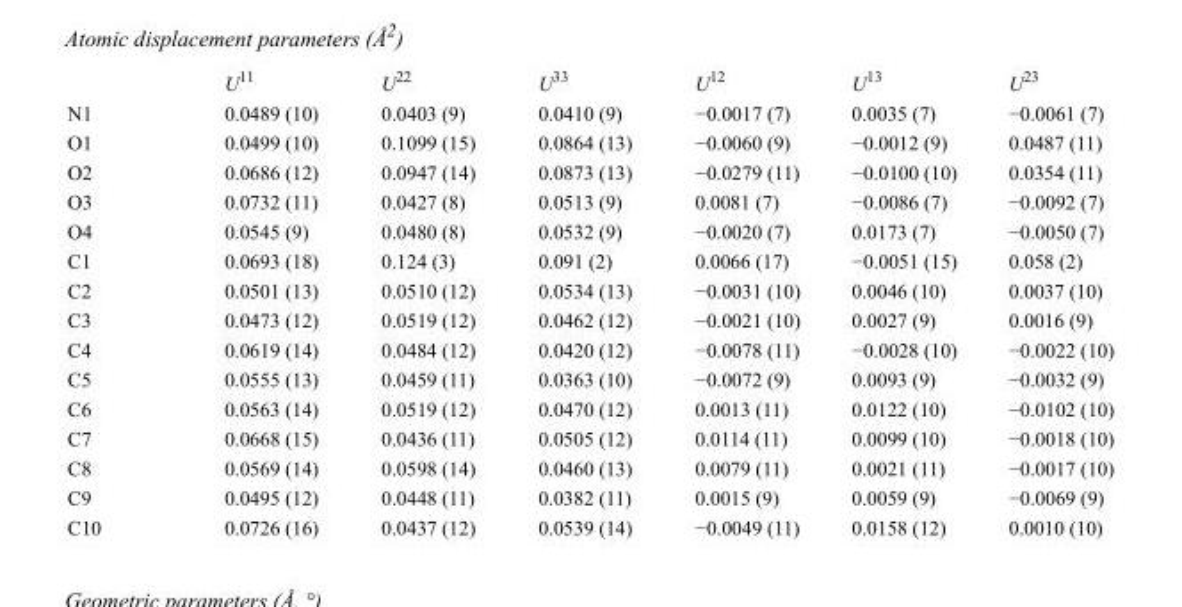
<table><thead><tr><td></td><td>U<sup>11</sup></td><td>U<sup>22</sup></td><td>U<sup>33</sup></td><td>U<sup>12</sup></td><td>U<sup>13</sup></td><td>U<sup>23</sup></td></tr></thead><tbody><tr><td>N1</td><td>0.0489 (10)</td><td>0.0403 (9)</td><td>0.0410 (9)</td><td>−0.0017 (7)</td><td>0.0035 (7)</td><td>−0.0061 (7)</td></tr><tr><td>O1</td><td>0.0499 (10)</td><td>0.1099 (15)</td><td>0.0864 (13)</td><td>−0.0060 (9)</td><td>−0.0012 (9)</td><td>0.0487 (11)</td></tr><tr><td>O2</td><td>0.0686 (12)</td><td>0.0947 (14)</td><td>0.0873 (13)</td><td>−0.0279 (11)</td><td>−0.0100 (10)</td><td>0.0354 (11)</td></tr><tr><td>O3</td><td>0.0732 (11)</td><td>0.0427 (8)</td><td>0.0513 (9)</td><td>0.0081 (7)</td><td>−0.0086 (7)</td><td>−0.0092 (7)</td></tr><tr><td>O4</td><td>0.0545 (9)</td><td>0.0480 (8)</td><td>0.0532 (9)</td><td>−0.0020 (7)</td><td>0.0173 (7)</td><td>−0.0050 (7)</td></tr><tr><td>C1</td><td>0.0693 (18)</td><td>0.124 (3)</td><td>0.091 (2)</td><td>0.0066 (17)</td><td>−0.0051 (15)</td><td>0.058 (2)</td></tr><tr><td>C2</td><td>0.0501 (13)</td><td>0.0510 (12)</td><td>0.0534 (13)</td><td>−0.0031 (10)</td><td>0.0046 (10)</td><td>0.0037 (10)</td></tr><tr><td>C3</td><td>0.0473 (12)</td><td>0.0519 (12)</td><td>0.0462 (12)</td><td>−0.0021 (10)</td><td>0.0027 (9)</td><td>0.0016 (9)</td></tr><tr><td>C4</td><td>0.0619 (14)</td><td>0.0484 (12)</td><td>0.0420 (12)</td><td>−0.0078 (11)</td><td>−0.0028 (10)</td><td>−0.0022 (10)</td></tr><tr><td>C5</td><td>0.0555 (13)</td><td>0.0459 (11)</td><td>0.0363 (10)</td><td>−0.0072 (9)</td><td>0.0093 (9)</td><td>−0.0032 (9)</td></tr><tr><td>C6</td><td>0.0563 (14)</td><td>0.0519 (12)</td><td>0.0470 (12)</td><td>0.0013 (11)</td><td>0.0122 (10)</td><td>−0.0102 (10)</td></tr><tr><td>C7</td><td>0.0668 (15)</td><td>0.0436 (11)</td><td>0.0505 (12)</td><td>0.0114 (11)</td><td>0.0099 (10)</td><td>−0.0018 (10)</td></tr><tr><td>C8</td><td>0.0569 (14)</td><td>0.0598 (14)</td><td>0.0460 (13)</td><td>0.0079 (11)</td><td>0.0021 (11)</td><td>−0.0017 (10)</td></tr><tr><td>C9</td><td>0.0495 (12)</td><td>0.0448 (11)</td><td>0.0382 (11)</td><td>0.0015 (9)</td><td>0.0059 (9)</td><td>−0.0069 (9)</td></tr><tr><td>C10</td><td>0.0726 (16)</td><td>0.0437 (12)</td><td>0.0539 (14)</td><td>−0.0049 (11)</td><td>0.0158 (12)</td><td>0.0010 (10)</td></tr></tbody></table>